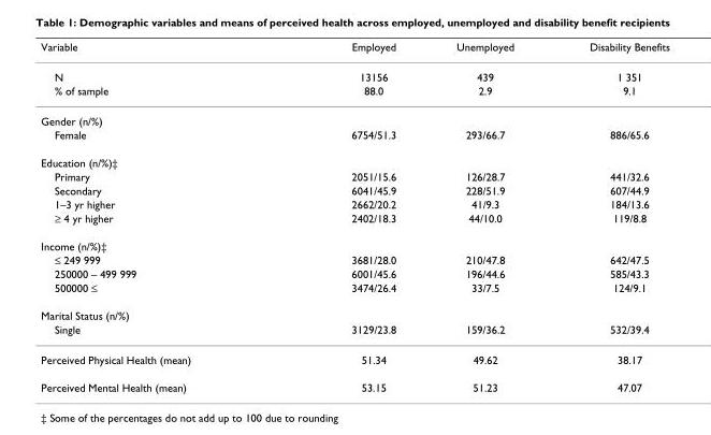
<table><thead><tr><td>Variable</td><td>Employed</td><td>Unemployed</td><td>Disability Benefits</td></tr></thead><tbody><tr><td>N</td><td>13156</td><td>439</td><td>1 351</td></tr><tr><td>% of sample</td><td>88.0</td><td>2.9</td><td>9.1</td></tr><tr><td colspan="4">Gender (n/%)</td></tr><tr><td>Female</td><td>6754/51.3</td><td>293/66.7</td><td>886/65.6</td></tr><tr><td colspan="4">Education (n/%)‡</td></tr><tr><td>Primary</td><td>2051/15.6</td><td>126/28.7</td><td>441/32.6</td></tr><tr><td>Secondary</td><td>6041/45.9</td><td>228/51.9</td><td>607/44.9</td></tr><tr><td>1–3 yr higher</td><td>2662/20.2</td><td>41/9.3</td><td>184/13.6</td></tr><tr><td>≥ 4 yr higher</td><td>2402/18.3</td><td>44/10.0</td><td>119/8.8</td></tr><tr><td colspan="4">Income (n/%)‡</td></tr><tr><td>≤ 249 999</td><td>3681/28.0</td><td>210/47.8</td><td>642/47.5</td></tr><tr><td>250000 – 499 999</td><td>6001/45.6</td><td>196/44.6</td><td>585/43.3</td></tr><tr><td>500000 ≤</td><td>3474/26.4</td><td>33/7.5</td><td>124/9.1</td></tr><tr><td colspan="4">Marital Status (n/%)</td></tr><tr><td>Single</td><td>3129/23.8</td><td>159/36.2</td><td>532/39.4</td></tr><tr><td>Perceived Physical Health (mean)</td><td>51.34</td><td>49.62</td><td>38.17</td></tr><tr><td>Perceived Mental Health (mean)</td><td>53.15</td><td>51.23</td><td>47.07</td></tr></tbody></table>